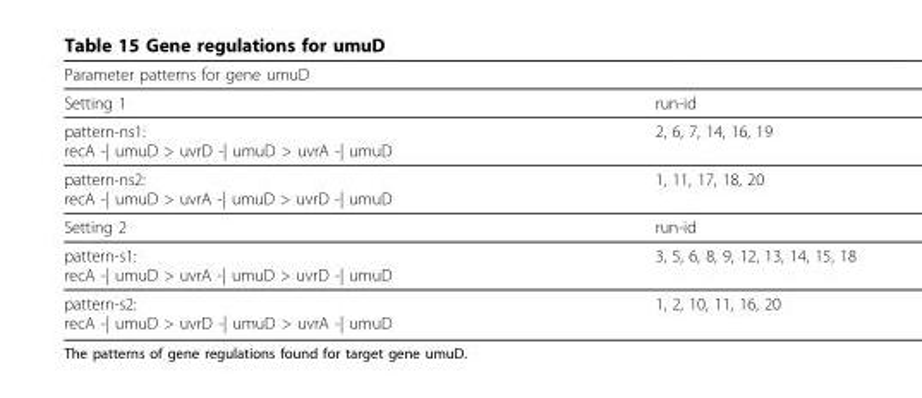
<table><thead><tr><td>Parameter patterns for gene umuD</td><td></td></tr></thead><tbody><tr><td>Setting 1</td><td>run-id</td></tr><tr><td>pattern-ns1: recA -| umuD &gt; uvrD -| umuD &gt; uvrA -| umuD</td><td>2, 6, 7, 14, 16, 19</td></tr><tr><td>pattern-ns2: recA -| umuD &gt; uvrA -| umuD &gt; uvrD -| umuD</td><td>1, 11, 17, 18, 20</td></tr><tr><td>Setting 2</td><td>run-id</td></tr><tr><td>pattern-s1: recA -| umuD &gt; uvrA -| umuD &gt; uvrD -| umuD</td><td>3, 5, 6, 8, 9, 12, 13, 14, 15, 18</td></tr><tr><td>pattern-s2: recA -| umuD &gt; uvrD -| umuD &gt; uvrA -| umuD</td><td>1, 2, 10, 11, 16, 20</td></tr></tbody></table>